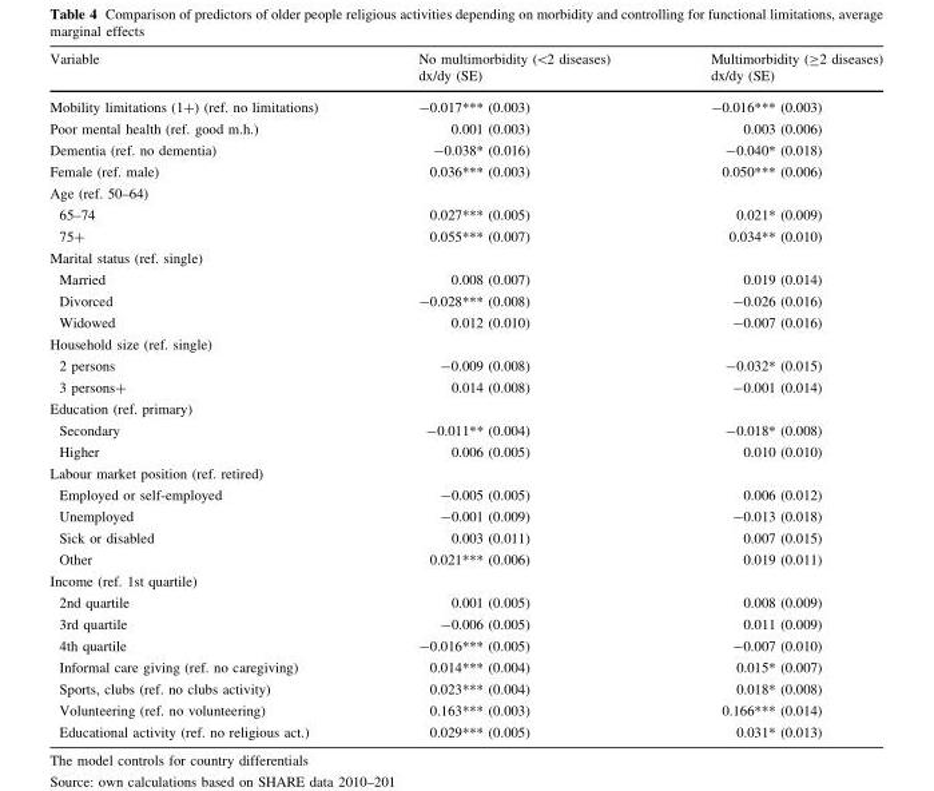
<table><thead><tr><td rowspan="2">Variable</td><td rowspan="2">No multimorbidity (&lt;2 diseases) dx/dy (SE)</td><td rowspan="2">Multimorbidity (≥2 diseases) dx/dy (SE)</td></tr><tr></tr></thead><tbody><tr><td>Mobility limitations (1+) (ref. no limitations)</td><td>-0.017*** (0.003)</td><td>-0.016*** (0.003)</td></tr><tr><td>Poor mental health (ref. good m.h.)</td><td>0.001 (0.003)</td><td>0.003 (0.006)</td></tr><tr><td>Dementia (ref. no dementia)</td><td>-0.038* (0.016)</td><td>-0.040* (0.018)</td></tr><tr><td>Female (ref. male)</td><td>0.036*** (0.003)</td><td>0.050*** (0.006)</td></tr><tr><td colspan="3">Age (ref. 50–64)</td></tr><tr><td>65–74</td><td>0.027*** (0.005)</td><td>0.021* (0.009)</td></tr><tr><td>75+</td><td>0.055*** (0.007)</td><td>0.034** (0.010)</td></tr><tr><td colspan="3">Marital status (ref. single)</td></tr><tr><td>Married</td><td>0.008 (0.007)</td><td>0.019 (0.014)</td></tr><tr><td>Divorced</td><td>-0.028*** (0.008)</td><td>-0.026 (0.016)</td></tr><tr><td>Widowed</td><td>0.012 (0.010)</td><td>-0.007 (0.016)</td></tr><tr><td colspan="3">Household size (ref. single)</td></tr><tr><td>2 persons</td><td>-0.009 (0.008)</td><td>-0.032* (0.015)</td></tr><tr><td>3 persons+</td><td>0.014 (0.008)</td><td>-0.001 (0.014)</td></tr><tr><td colspan="3">Education (ref. primary)</td></tr><tr><td>Secondary</td><td>-0.011** (0.004)</td><td>-0.018* (0.008)</td></tr><tr><td>Higher</td><td>0.006 (0.005)</td><td>0.010 (0.010)</td></tr><tr><td colspan="3">Labour market position (ref. retired)</td></tr><tr><td>Employed or self-employed</td><td>-0.005 (0.005)</td><td>0.006 (0.012)</td></tr><tr><td>Unemployed</td><td>-0.001 (0.009)</td><td>-0.013 (0.018)</td></tr><tr><td>Sick or disabled</td><td>0.003 (0.011)</td><td>0.007 (0.015)</td></tr><tr><td>Other</td><td>0.021*** (0.006)</td><td>0.019 (0.011)</td></tr><tr><td colspan="3">Income (ref. 1st quartile)</td></tr><tr><td>2nd quartile</td><td>0.001 (0.005)</td><td>0.008 (0.009)</td></tr><tr><td>3rd quartile</td><td>-0.006 (0.005)</td><td>0.011 (0.009)</td></tr><tr><td>4th quartile</td><td>-0.016*** (0.005)</td><td>-0.007 (0.010)</td></tr><tr><td>Informal care giving (ref. no caregiving)</td><td>0.014*** (0.004)</td><td>0.015* (0.007)</td></tr><tr><td>Sports, clubs (ref. no clubs activity)</td><td>0.023*** (0.004)</td><td>0.018* (0.008)</td></tr><tr><td>Volunteering (ref. no volunteering)</td><td>0.163*** (0.003)</td><td>0.166*** (0.014)</td></tr><tr><td>Educational activity (ref. no religious act.)</td><td>0.029*** (0.005)</td><td>0.031* (0.013)</td></tr></tbody></table>